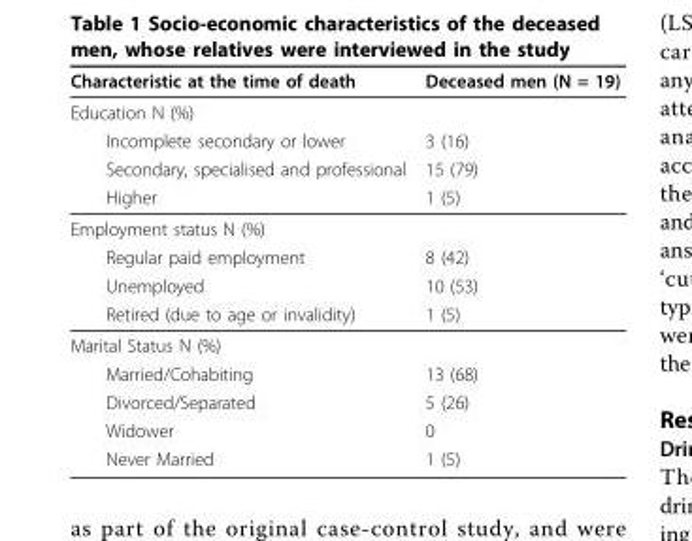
<table><thead><tr><td>Characteristic at the time of death</td><td>Deceased men (N = 19)</td></tr></thead><tbody><tr><td colspan="2">Education N (%)</td></tr><tr><td>Incomplete secondary or lower</td><td>3 (16)</td></tr><tr><td>Secondary, specialised and professional</td><td>15 (79)</td></tr><tr><td>Higher</td><td>1 (5)</td></tr><tr><td colspan="2">Employment status N (%)</td></tr><tr><td>Regular paid employment</td><td>8 (42)</td></tr><tr><td>Unemployed</td><td>10 (53)</td></tr><tr><td>Retired (due to age or invalidity)</td><td>1 (5)</td></tr><tr><td colspan="2">Marital Status N (%)</td></tr><tr><td>Married/Cohabiting</td><td>13 (68)</td></tr><tr><td>Divorced/Separated</td><td>5 (26)</td></tr><tr><td>Widower</td><td>0</td></tr><tr><td>Never Married</td><td>1 (5)</td></tr></tbody></table>